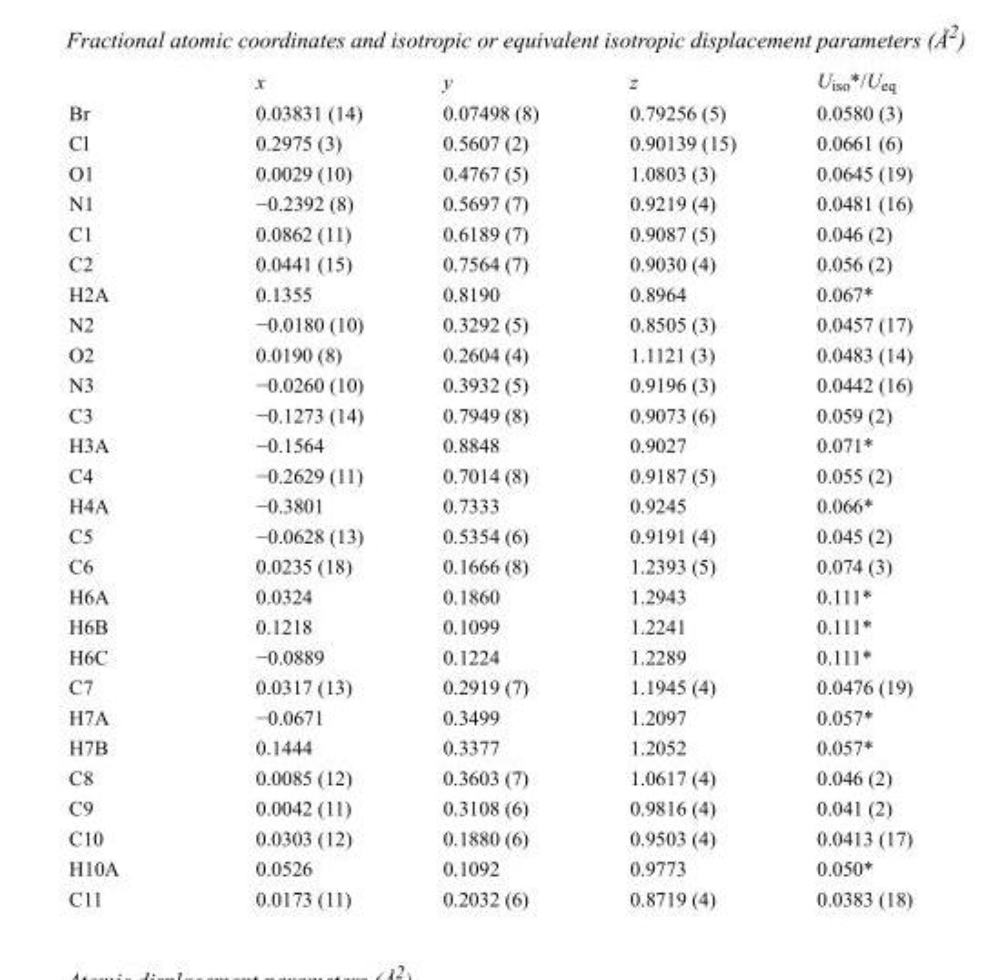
<table><thead><tr><td></td><td>x</td><td>y</td><td>z</td><td>U<sub>iso</sub>*/U<sub>eq</sub></td></tr></thead><tbody><tr><td>Br</td><td>0.03831 (14)</td><td>0.07498 (8)</td><td>0.79256 (5)</td><td>0.0580 (3)</td></tr><tr><td>Cl</td><td>0.2975 (3)</td><td>0.5607 (2)</td><td>0.90139 (15)</td><td>0.0661 (6)</td></tr><tr><td>O1</td><td>0.0029 (10)</td><td>0.4767 (5)</td><td>1.0803 (3)</td><td>0.0645 (19)</td></tr><tr><td>N1</td><td>−0.2392 (8)</td><td>0.5697 (7)</td><td>0.9219 (4)</td><td>0.0481 (16)</td></tr><tr><td>C1</td><td>0.0862 (11)</td><td>0.6189 (7)</td><td>0.9087 (5)</td><td>0.046 (2)</td></tr><tr><td>C2</td><td>0.0441 (15)</td><td>0.7564 (7)</td><td>0.9030 (4)</td><td>0.056 (2)</td></tr><tr><td>H2A</td><td>0.1355</td><td>0.8190</td><td>0.8964</td><td>0.067*</td></tr><tr><td>N2</td><td>−0.0180 (10)</td><td>0.3292 (5)</td><td>0.8505 (3)</td><td>0.0457 (17)</td></tr><tr><td>O2</td><td>0.0190 (8)</td><td>0.2604 (4)</td><td>1.1121 (3)</td><td>0.0483 (14)</td></tr><tr><td>N3</td><td>−0.0260 (10)</td><td>0.3932 (5)</td><td>0.9196 (3)</td><td>0.0442 (16)</td></tr><tr><td>C3</td><td>−0.1273 (14)</td><td>0.7949 (8)</td><td>0.9073 (6)</td><td>0.059 (2)</td></tr><tr><td>H3A</td><td>−0.1564</td><td>0.8848</td><td>0.9027</td><td>0.071*</td></tr><tr><td>C4</td><td>−0.2629 (11)</td><td>0.7014 (8)</td><td>0.9187 (5)</td><td>0.055 (2)</td></tr><tr><td>H4A</td><td>−0.3801</td><td>0.7333</td><td>0.9245</td><td>0.066*</td></tr><tr><td>C5</td><td>−0.0628 (13)</td><td>0.5354 (6)</td><td>0.9191 (4)</td><td>0.045 (2)</td></tr><tr><td>C6</td><td>0.0235 (18)</td><td>0.1666 (8)</td><td>1.2393 (5)</td><td>0.074 (3)</td></tr><tr><td>H6A</td><td>0.0324</td><td>0.1860</td><td>1.2943</td><td>0.111*</td></tr><tr><td>H6B</td><td>0.1218</td><td>0.1099</td><td>1.2241</td><td>0.111*</td></tr><tr><td>H6C</td><td>−0.0889</td><td>0.1224</td><td>1.2289</td><td>0.111*</td></tr><tr><td>C7</td><td>0.0317 (13)</td><td>0.2919 (7)</td><td>1.1945 (4)</td><td>0.0476 (19)</td></tr><tr><td>H7A</td><td>−0.0671</td><td>0.3499</td><td>1.2097</td><td>0.057*</td></tr><tr><td>H7B</td><td>0.1444</td><td>0.3377</td><td>1.2052</td><td>0.057*</td></tr><tr><td>C8</td><td>0.0085 (12)</td><td>0.3603 (7)</td><td>1.0617 (4)</td><td>0.046 (2)</td></tr><tr><td>C9</td><td>0.0042 (11)</td><td>0.3108 (6)</td><td>0.9816 (4)</td><td>0.041 (2)</td></tr><tr><td>C10</td><td>0.0303 (12)</td><td>0.1880 (6)</td><td>0.9503 (4)</td><td>0.0413 (17)</td></tr><tr><td>H10A</td><td>0.0526</td><td>0.1092</td><td>0.9773</td><td>0.050*</td></tr><tr><td>C11</td><td>0.0173 (11)</td><td>0.2032 (6)</td><td>0.8719 (4)</td><td>0.0383 (18)</td></tr></tbody></table>